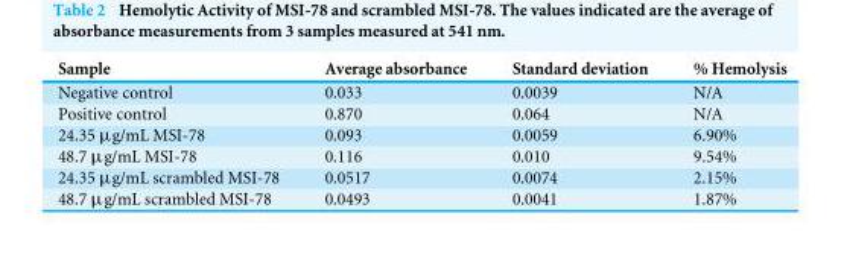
<table><thead><tr><td>Sample</td><td>Average absorbance</td><td>Standard deviation</td><td>% Hemolysis</td></tr></thead><tbody><tr><td>Negative control</td><td>0.033</td><td>0.0039</td><td>N/A</td></tr><tr><td>Positive control</td><td>0.870</td><td>0.064</td><td>N/A</td></tr><tr><td>24.35 µg/mL MSI-78</td><td>0.093</td><td>0.0059</td><td>6.90%</td></tr><tr><td>48.7 µg/mL MSI-78</td><td>0.116</td><td>0.010</td><td>9.54%</td></tr><tr><td>24.35 µg/mL scrambled MSI-78</td><td>0.0517</td><td>0.0074</td><td>2.15%</td></tr><tr><td>48.7 µg/mL scrambled MSI-78</td><td>0.0493</td><td>0.0041</td><td>1.87%</td></tr></tbody></table>